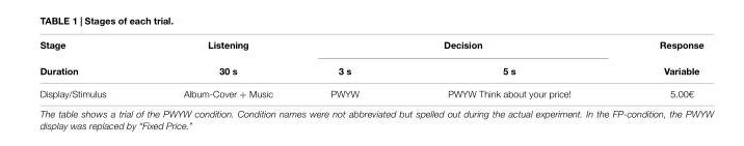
<table><thead><tr><td rowspan="2">Stage Duration</td><td rowspan="2">Listening 30 s</td><td colspan="2">Decision</td><td rowspan="2">Response Variable</td></tr><tr><td>3 s</td><td>5 s</td></tr></thead><tbody><tr><td>Display/Stimulus</td><td>Album-Cover + Music</td><td>PWYW</td><td>PWYW Think about your price!</td><td>5.00€</td></tr></tbody></table>